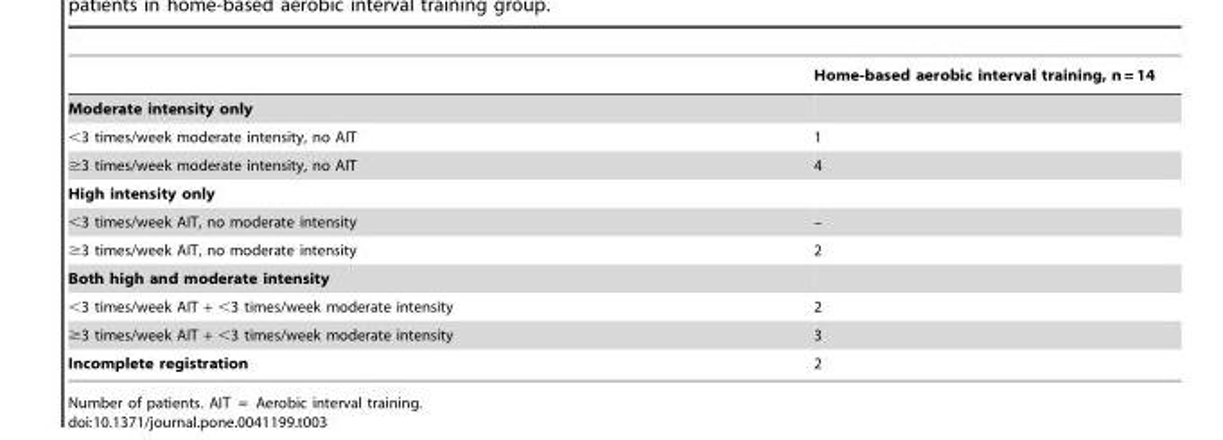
<table><thead><tr><td></td><td>Home-based aerobic interval training, n = 14</td></tr></thead><tbody><tr><td colspan="2">Moderate intensity only</td></tr><tr><td>&lt;3 times/week moderate intensity, no AIT</td><td>1</td></tr><tr><td>≥3 times/week moderate intensity, no AIT</td><td>4</td></tr><tr><td colspan="2">High intensity only</td></tr><tr><td>&lt;3 times/week AIT, no moderate intensity</td><td>–</td></tr><tr><td>≥3 times/week AIT, no moderate intensity</td><td>2</td></tr><tr><td colspan="2">Both high and moderate intensity</td></tr><tr><td>&lt;3 times/week AIT + &lt;3 times/week moderate intensity</td><td>2</td></tr><tr><td>≥3 times/week AIT + &lt;3 times/week moderate intensity</td><td>3</td></tr><tr><td>Incomplete registration</td><td>2</td></tr></tbody></table>